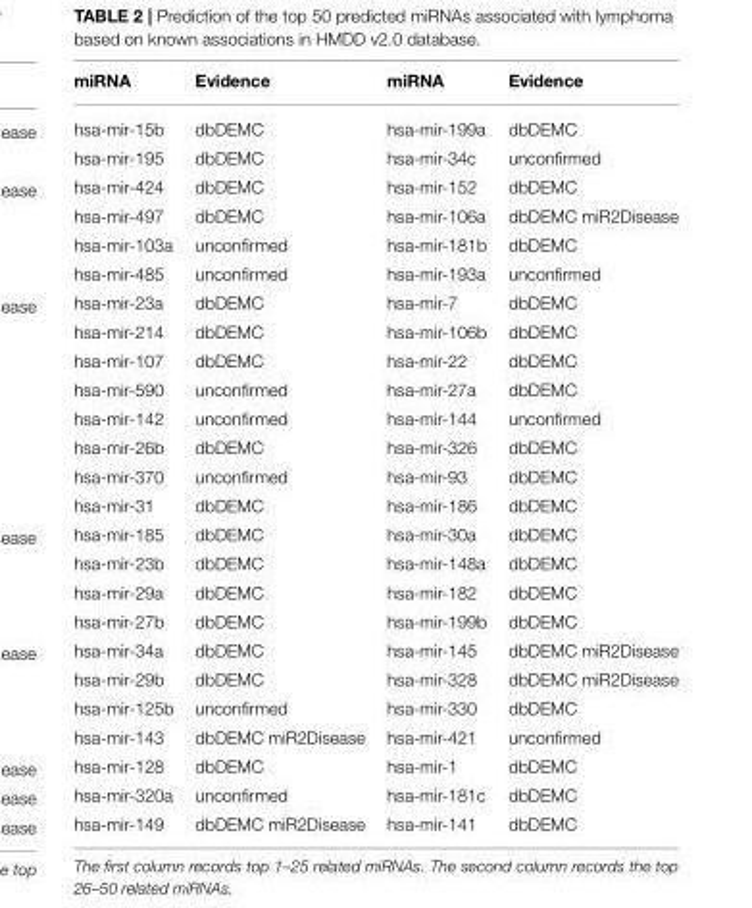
<table><thead><tr><td>miRNA</td><td>Evidence</td><td>miRNA</td><td>Evidence</td></tr></thead><tbody><tr><td>hsa-mir-15b</td><td>dbDEMC</td><td>hsa-mir-199a</td><td>dbDEMC</td></tr><tr><td>hsa-mir-195</td><td>dbDEMC</td><td>hsa-mir-34c</td><td>unconfirmed</td></tr><tr><td>hsa-mir-424</td><td>dbDEMC</td><td>hsa-mir-152</td><td>dbDEMC</td></tr><tr><td>hsa-mir-497</td><td>dbDEMC</td><td>hsa-mir-106a</td><td>dbDEMC miR2Disease</td></tr><tr><td>hsa-mir-103a</td><td>unconfirmed</td><td>hsa-mir-181b</td><td>dbDEMC</td></tr><tr><td>hsa-mir-485</td><td>unconfirmed</td><td>hsa-mir-193a</td><td>unconfirmed</td></tr><tr><td>hsa-mir-23a</td><td>dbDEMC</td><td>hsa-mir-7</td><td>dbDEMC</td></tr><tr><td>hsa-mir-214</td><td>dbDEMC</td><td>hsa-mir-106b</td><td>dbDEMC</td></tr><tr><td>hsa-mir-107</td><td>dbDEMC</td><td>hsa-mir-22</td><td>dbDEMC</td></tr><tr><td>hsa-mir-590</td><td>unconfirmed</td><td>hsa-mir-27a</td><td>dbDEMC</td></tr><tr><td>hsa-mir-142</td><td>unconfirmed</td><td>hsa-mir-144</td><td>unconfirmed</td></tr><tr><td>hsa-mir-26b</td><td>dbDEMC</td><td>hsa-mir-326</td><td>dbDEMC</td></tr><tr><td>hsa-mir-370</td><td>unconfirmed</td><td>hsa-mir-93</td><td>dbDEMC</td></tr><tr><td>hsa-mir-31</td><td>dbDEMC</td><td>hsa-mir-186</td><td>dbDEMC</td></tr><tr><td>hsa-mir-185</td><td>dbDEMC</td><td>hsa-mir-30a</td><td>dbDEMC</td></tr><tr><td>hsa-mir-23b</td><td>dbDEMC</td><td>hsa-mir-148a</td><td>dbDEMC</td></tr><tr><td>hsa-mir-29a</td><td>dbDEMC</td><td>hsa-mir-182</td><td>dbDEMC</td></tr><tr><td>hsa-mir-27b</td><td>dbDEMC</td><td>hsa-mir-199b</td><td>dbDEMC</td></tr><tr><td>hsa-mir-34a</td><td>dbDEMC</td><td>hsa-mir-145</td><td>dbDEMC miR2Disease</td></tr><tr><td>hsa-mir-29b</td><td>dbDEMC</td><td>hsa-mir-328</td><td>dbDEMC miR2Disease</td></tr><tr><td>hsa-mir-125b</td><td>unconfirmed</td><td>hsa-mir-330</td><td>dbDEMC</td></tr><tr><td>hsa-mir-143</td><td>dbDEMC miR2Disease</td><td>hsa-mir-421</td><td>unconfirmed</td></tr><tr><td>hsa-mir-128</td><td>dbDEMC</td><td>hsa-mir-1</td><td>dbDEMC</td></tr><tr><td>hsa-mir-320a</td><td>unconfirmed</td><td>hsa-mir-181c</td><td>dbDEMC</td></tr><tr><td>hsa-mir-149</td><td>dbDEMC miR2Disease</td><td>hsa-mir-141</td><td>dbDEMC</td></tr></tbody></table>